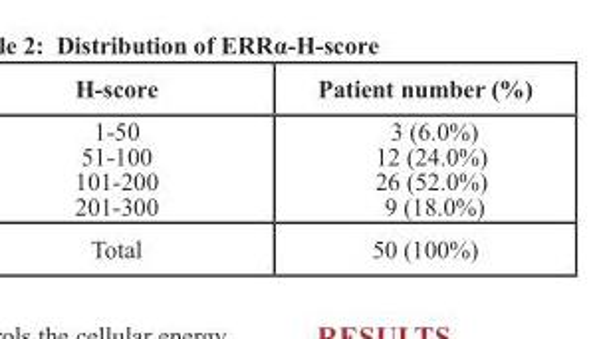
<table><thead><tr><td>H-score</td><td>Patient number (%)</td></tr></thead><tbody><tr><td>1-50 51-100 101-200 201-300</td><td>3 (6.0%) 12 (24.0%) 26 (52.0%) 9 (18.0%)</td></tr><tr><td>Total</td><td>50 (100%)</td></tr></tbody></table>